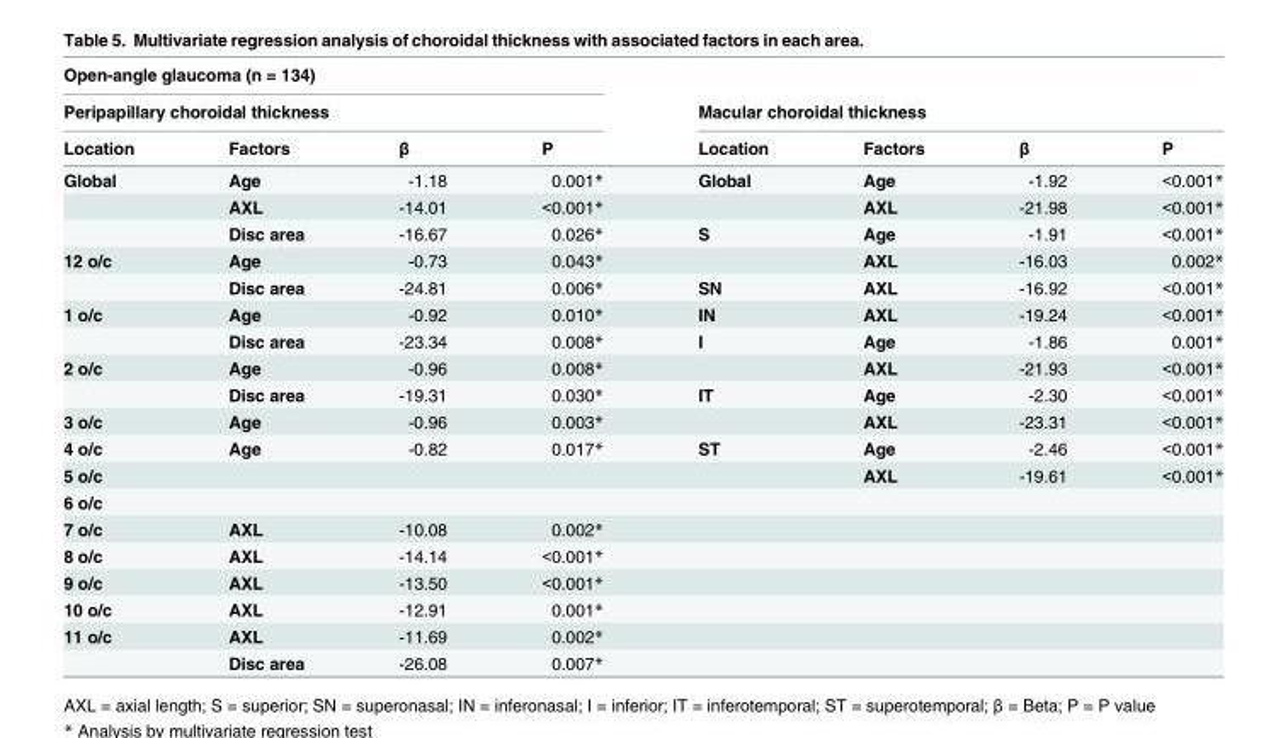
<table><thead><tr><td rowspan="2" colspan="4">Open-angle glaucoma (n = 134) Peripapillary choroidal thickness</td><td></td><td></td><td></td><td></td></tr><tr><td colspan="4">Macular choroidal thickness</td></tr><tr><td>Location</td><td>Factors</td><td>β</td><td>P</td><td>Location</td><td>Factors</td><td>β</td><td>P</td></tr></thead><tbody><tr><td rowspan="3">Global</td><td>Age</td><td>-1.18</td><td>0.001*</td><td>Global</td><td>Age</td><td>-1.92</td><td>&lt;0.001*</td></tr><tr><td>AXL</td><td>-14.01</td><td>&lt;0.001*</td><td></td><td>AXL</td><td>-21.98</td><td>&lt;0.001*</td></tr><tr><td>Disc area</td><td>-16.67</td><td>0.026*</td><td>S</td><td>Age</td><td>-1.91</td><td>&lt;0.001*</td></tr><tr><td rowspan="2">12 o/c</td><td>Age</td><td>-0.73</td><td>0.043*</td><td></td><td>AXL</td><td>-16.03</td><td>0.002*</td></tr><tr><td>Disc area</td><td>-24.81</td><td>0.006*</td><td>SN</td><td>AXL</td><td>-16.92</td><td>&lt;0.001*</td></tr><tr><td rowspan="2">1 o/c</td><td>Age</td><td>-0.92</td><td>0.010*</td><td>IN</td><td>AXL</td><td>-19.24</td><td>&lt;0.001*</td></tr><tr><td>Disc area</td><td>-23.34</td><td>0.008*</td><td>I</td><td>Age</td><td>-1.86</td><td>0.001*</td></tr><tr><td rowspan="2">2 o/c</td><td>Age</td><td>-0.96</td><td>0.008*</td><td></td><td>AXL</td><td>-21.93</td><td>&lt;0.001*</td></tr><tr><td>Disc area</td><td>-19.31</td><td>0.030*</td><td>IT</td><td>Age</td><td>-2.30</td><td>&lt;0.001*</td></tr><tr><td>3 o/c</td><td>Age</td><td>-0.96</td><td>0.003*</td><td></td><td>AXL</td><td>-23.31</td><td>&lt;0.001*</td></tr><tr><td>4 o/c</td><td>Age</td><td>-0.82</td><td>0.017*</td><td>ST</td><td>Age</td><td>-2.46</td><td>&lt;0.001*</td></tr><tr><td>5 o/c</td><td></td><td></td><td></td><td></td><td>AXL</td><td>-19.61</td><td>&lt;0.001*</td></tr><tr><td colspan="8">6 o/c</td></tr><tr><td>7 o/c</td><td>AXL</td><td>-10.08</td><td>0.002*</td><td></td><td></td><td></td><td></td></tr><tr><td>8 o/c</td><td>AXL</td><td>-14.14</td><td>&lt;0.001*</td><td></td><td></td><td></td><td></td></tr><tr><td>9 o/c</td><td>AXL</td><td>-13.50</td><td>&lt;0.001*</td><td></td><td></td><td></td><td></td></tr><tr><td>10 o/c</td><td>AXL</td><td>-12.91</td><td>0.001*</td><td></td><td></td><td></td><td></td></tr><tr><td rowspan="2">11 o/c</td><td>AXL</td><td>-11.69</td><td>0.002*</td><td></td><td></td><td></td><td></td></tr><tr><td>Disc area</td><td>-26.08</td><td>0.007*</td><td></td><td></td><td></td><td></td></tr></tbody></table>